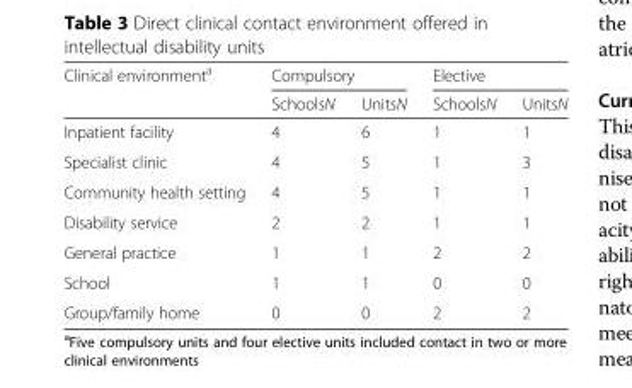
<table><thead><tr><td rowspan="2">Clinical environment<sup>a</sup></td><td colspan="2">Compulsory</td><td colspan="2">Elective</td></tr><tr><td>SchoolsN</td><td>UnitsN</td><td>SchoolsN</td><td>UnitsN</td></tr></thead><tbody><tr><td>Inpatient facility</td><td>4</td><td>6</td><td>1</td><td>1</td></tr><tr><td>Specialist clinic</td><td>4</td><td>5</td><td>1</td><td>3</td></tr><tr><td>Community health setting</td><td>4</td><td>5</td><td>1</td><td>1</td></tr><tr><td>Disability service</td><td>2</td><td>2</td><td>1</td><td>1</td></tr><tr><td>General practice</td><td>1</td><td>1</td><td>2</td><td>2</td></tr><tr><td>School</td><td>1</td><td>1</td><td>0</td><td>0</td></tr><tr><td>Group/family home</td><td>0</td><td>0</td><td>2</td><td>2</td></tr></tbody></table>